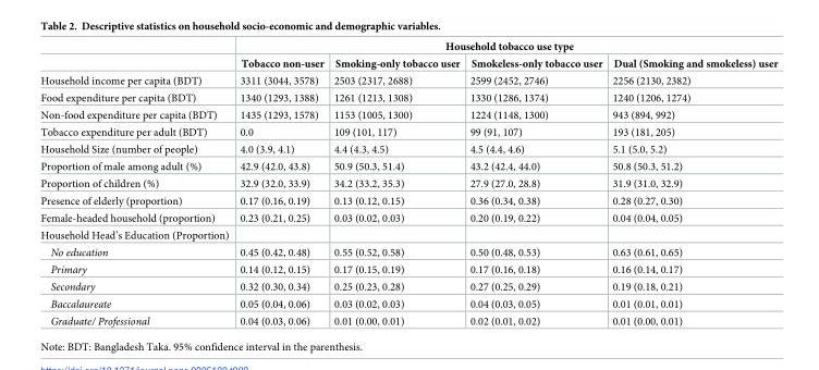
<table><thead><tr><td rowspan="2"></td><td colspan="4">Household tobacco use type</td></tr><tr><td>Tobacco non-user</td><td>Smoking-only tobacco user</td><td>Smokeless-only tobacco user</td><td>Dual (Smoking and smokeless) user</td></tr></thead><tbody><tr><td>Household income per capita (BDT)</td><td>3311 (3044, 3578)</td><td>2503 (2317, 2688)</td><td>2599 (2452, 2746)</td><td>2256 (2130, 2382)</td></tr><tr><td>Food expenditure per capita (BDT)</td><td>1340 (1293, 1388)</td><td>1261 (1213, 1308)</td><td>1330 (1286, 1374)</td><td>1240 (1206, 1274)</td></tr><tr><td>Non-food expenditure per capita (BDT)</td><td>1435 (1293, 1578)</td><td>1153 (1005, 1300)</td><td>1224 (1148, 1300)</td><td>943 (894, 992)</td></tr><tr><td>Tobacco expenditure per adult (BDT)</td><td>0.0</td><td>109 (101, 117)</td><td>99 (91, 107)</td><td>193 (181, 205)</td></tr><tr><td>Household Size (number of people)</td><td>4.0 (3.9, 4.1)</td><td>4.4 (4.3, 4.5)</td><td>4.5 (4.4, 4.6)</td><td>5.1 (5.0, 5.2)</td></tr><tr><td>Proportion of male among adult (%)</td><td>42.9 (42.0, 43.8)</td><td>50.9 (50.3, 51.4)</td><td>43.2 (42.4, 44.0)</td><td>50.8 (50.3, 51.2)</td></tr><tr><td>Proportion of children (%)</td><td>32.9 (32.0, 33.9)</td><td>34.2 (33.2, 35.3)</td><td>27.9 (27.0, 28.8)</td><td>31.9 (31.0, 32.9)</td></tr><tr><td>Presence of elderly (proportion)</td><td>0.17 (0.16, 0.19)</td><td>0.13 (0.12, 0.15)</td><td>0.36 (0.34, 0.38)</td><td>0.28 (0.27, 0.30)</td></tr><tr><td>Female-headed household (proportion)</td><td>0.23 (0.21, 0.25)</td><td>0.03 (0.02, 0.03)</td><td>0.20 (0.19, 0.22)</td><td>0.04 (0.04, 0.05)</td></tr><tr><td colspan="5">Household Head’s Education (Proportion)</td></tr><tr><td>No education</td><td>0.45 (0.42, 0.48)</td><td>0.55 (0.52, 0.58)</td><td>0.50 (0.48, 0.53)</td><td>0.63 (0.61, 0.65)</td></tr><tr><td>Primary</td><td>0.14 (0.12, 0.15)</td><td>0.17 (0.15, 0.19)</td><td>0.17 (0.16, 0.18)</td><td>0.16 (0.14, 0.17)</td></tr><tr><td>Secondary</td><td>0.32 (0.30, 0.34)</td><td>0.25 (0.23, 0.28)</td><td>0.27 (0.25, 0.29)</td><td>0.19 (0.18, 0.21)</td></tr><tr><td>Baccalaureate</td><td>0.05 (0.04, 0.06)</td><td>0.03 (0.02, 0.03)</td><td>0.04 (0.03, 0.05)</td><td>0.01 (0.01, 0.01)</td></tr><tr><td>Graduate/ Professional</td><td>0.04 (0.03, 0.06)</td><td>0.01 (0.00, 0.01)</td><td>0.02 (0.01, 0.02)</td><td>0.01 (0.00, 0.01)</td></tr></tbody></table>